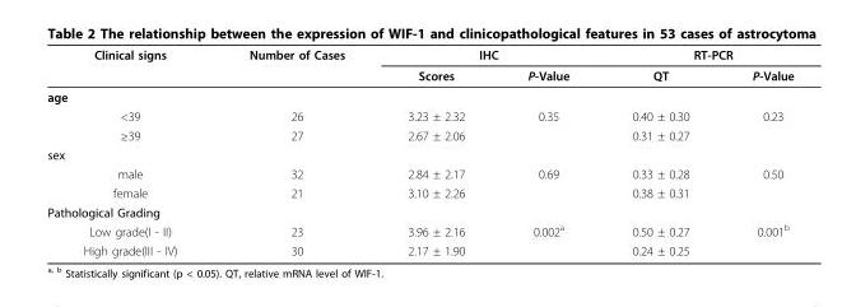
<table><thead><tr><td rowspan="2">Clinical signs</td><td rowspan="2">Number of Cases</td><td colspan="2">IHC</td><td colspan="2">RT-PCR</td></tr><tr><td>Scores</td><td>P-Value</td><td>QT</td><td>P-Value</td></tr></thead><tbody><tr><td colspan="6">age</td></tr><tr><td>&lt;39</td><td>26</td><td>3.23 ± 2.32</td><td>0.35</td><td>0.40 ± 0.30</td><td>0.23</td></tr><tr><td>≥39</td><td>27</td><td>2.67 ± 2.06</td><td></td><td>0.31 ± 0.27</td><td></td></tr><tr><td colspan="6">sex</td></tr><tr><td>male</td><td>32</td><td>2.84 ± 2.17</td><td>0.69</td><td>0.33 ± 0.28</td><td>0.50</td></tr><tr><td>female</td><td>21</td><td>3.10 ± 2.26</td><td></td><td>0.38 ± 0.31</td><td></td></tr><tr><td colspan="6">Pathological Grading</td></tr><tr><td>Low grade(I - II)</td><td>23</td><td>3.96 ± 2.16</td><td>0.002<sup>a</sup></td><td>0.50 ± 0.27</td><td>0.001<sup>b</sup></td></tr><tr><td>High grade(III - IV)</td><td>30</td><td>2.17 ± 1.90</td><td></td><td>0.24 ± 0.25</td><td></td></tr></tbody></table>